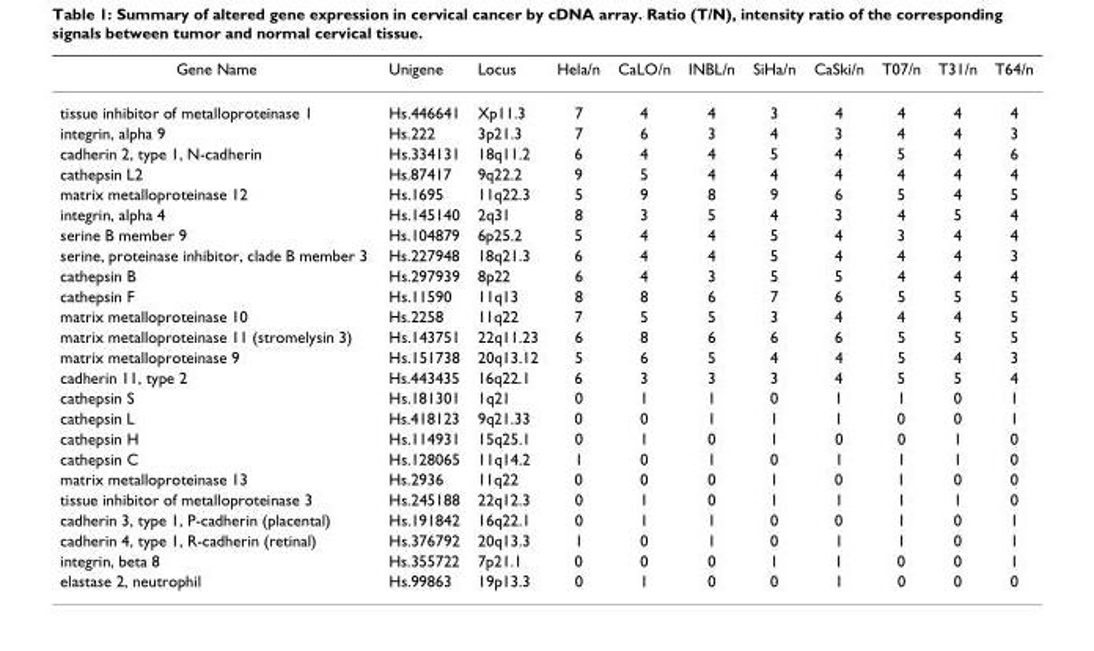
<table><thead><tr><td>Gene Name</td><td>Unigene</td><td>Locus</td><td>Hela/n</td><td>CaLO/n</td><td>INBL/n</td><td>SiHa/n</td><td>CaSki/n</td><td>T07/n</td><td>T31/n</td><td>T64/n</td></tr></thead><tbody><tr><td>tissue inhibitor of metalloproteinase 1</td><td>Hs.446641</td><td>Xp11.3</td><td>7</td><td>4</td><td>4</td><td>3</td><td>4</td><td>4</td><td>4</td><td>4</td></tr><tr><td>integrin, alpha 9</td><td>Hs.222</td><td>3p21.3</td><td>7</td><td>6</td><td>3</td><td>4</td><td>3</td><td>4</td><td>4</td><td>3</td></tr><tr><td>cadherin 2, type 1, N-cadherin</td><td>Hs.334131</td><td>18q11.2</td><td>6</td><td>4</td><td>4</td><td>5</td><td>4</td><td>5</td><td>4</td><td>6</td></tr><tr><td>cathepsin L2</td><td>Hs.87417</td><td>9q22.2</td><td>9</td><td>5</td><td>4</td><td>4</td><td>4</td><td>4</td><td>4</td><td>4</td></tr><tr><td>matrix metalloproteinase 12</td><td>Hs.1695</td><td>11q22.3</td><td>5</td><td>9</td><td>8</td><td>9</td><td>6</td><td>5</td><td>4</td><td>5</td></tr><tr><td>integrin, alpha 4</td><td>Hs.145140</td><td>2q31</td><td>8</td><td>3</td><td>5</td><td>4</td><td>3</td><td>4</td><td>5</td><td>4</td></tr><tr><td>serine B member 9</td><td>Hs.104879</td><td>6p25.2</td><td>5</td><td>4</td><td>4</td><td>5</td><td>4</td><td>3</td><td>4</td><td>4</td></tr><tr><td>serine, proteinase inhibitor, clade B member 3</td><td>Hs.227948</td><td>18q21.3</td><td>6</td><td>4</td><td>4</td><td>5</td><td>4</td><td>4</td><td>4</td><td>3</td></tr><tr><td>cathepsin B</td><td>Hs.297939</td><td>8p22</td><td>6</td><td>4</td><td>3</td><td>5</td><td>5</td><td>4</td><td>4</td><td>4</td></tr><tr><td>cathepsin F</td><td>Hs.11590</td><td>11q13</td><td>8</td><td>8</td><td>6</td><td>7</td><td>6</td><td>5</td><td>5</td><td>5</td></tr><tr><td>matrix metalloproteinase 10</td><td>Hs.2258</td><td>11q22</td><td>7</td><td>5</td><td>5</td><td>3</td><td>4</td><td>4</td><td>4</td><td>5</td></tr><tr><td>matrix metalloproteinase 11 (stromelysin 3)</td><td>Hs.143751</td><td>22q11.23</td><td>6</td><td>8</td><td>6</td><td>6</td><td>6</td><td>5</td><td>5</td><td>5</td></tr><tr><td>matrix metalloproteinase 9</td><td>Hs.151738</td><td>20q13.12</td><td>5</td><td>6</td><td>5</td><td>4</td><td>4</td><td>5</td><td>4</td><td>3</td></tr><tr><td>cadherin 11, type 2</td><td>Hs.443435</td><td>16q22.1</td><td>6</td><td>3</td><td>3</td><td>3</td><td>4</td><td>5</td><td>5</td><td>4</td></tr><tr><td>cathepsin S</td><td>Hs.181301</td><td>1q21</td><td>0</td><td>1</td><td>1</td><td>0</td><td>1</td><td>1</td><td>0</td><td>1</td></tr><tr><td>cathepsin L</td><td>Hs.418123</td><td>9q21.33</td><td>0</td><td>0</td><td>1</td><td>1</td><td>1</td><td>0</td><td>0</td><td>1</td></tr><tr><td>cathepsin H</td><td>Hs.114931</td><td>15q25.1</td><td>0</td><td>1</td><td>0</td><td>1</td><td>0</td><td>0</td><td>1</td><td>0</td></tr><tr><td>cathepsin C</td><td>Hs.128065</td><td>11q14.2</td><td>1</td><td>0</td><td>1</td><td>0</td><td>1</td><td>1</td><td>1</td><td>0</td></tr><tr><td>matrix metalloproteinase 13</td><td>Hs.2936</td><td>11q22</td><td>0</td><td>0</td><td>0</td><td>1</td><td>0</td><td>1</td><td>0</td><td>0</td></tr><tr><td>tissue inhibitor of metalloproteinase 3</td><td>Hs.245188</td><td>22q12.3</td><td>0</td><td>1</td><td>0</td><td>1</td><td>1</td><td>1</td><td>1</td><td>0</td></tr><tr><td>cadherin 3, type 1, P-cadherin (placental)</td><td>Hs.191842</td><td>16q22.1</td><td>0</td><td>1</td><td>1</td><td>0</td><td>0</td><td>1</td><td>0</td><td>1</td></tr><tr><td>cadherin 4, type 1, R-cadherin (retinal)</td><td>Hs.376792</td><td>20q13.3</td><td>1</td><td>0</td><td>1</td><td>0</td><td>1</td><td>1</td><td>0</td><td>1</td></tr><tr><td>integrin, beta 8</td><td>Hs.355722</td><td>7p21.1</td><td>0</td><td>0</td><td>0</td><td>1</td><td>1</td><td>0</td><td>0</td><td>1</td></tr><tr><td>elastase 2, neutrophil</td><td>Hs.99863</td><td>19p13.3</td><td>0</td><td>1</td><td>0</td><td>0</td><td>1</td><td>0</td><td>0</td><td>0</td></tr></tbody></table>